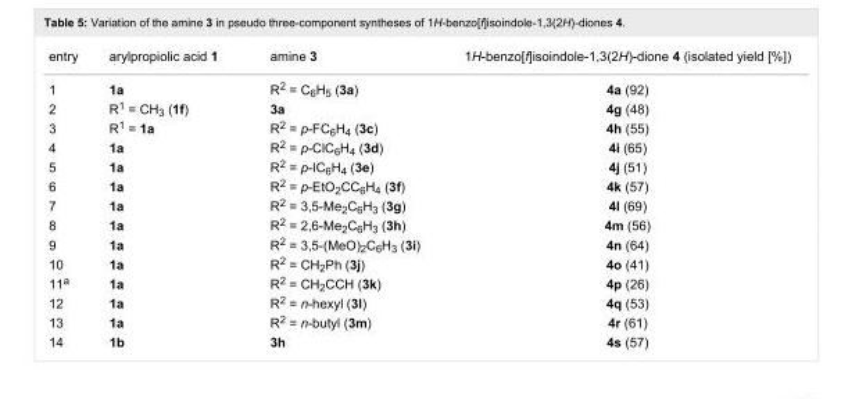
<table><tbody><tr><td>entry</td><td>arylpropiolic acid 1</td><td>amine 3</td><td>1H-benzo[f]isoindole-1,3(2H)-dione 4 (isolated yield [%])</td></tr><tr><td>1</td><td>1a</td><td>R<sup>2</sup> = C<sub>6</sub>H<sub>5</sub> (3a)</td><td>4a (92)</td></tr><tr><td>2</td><td>R<sup>1</sup> = CH<sub>3</sub> (1f)</td><td>3a</td><td>4g (48)</td></tr><tr><td>3</td><td>R<sup>1</sup> = 1a</td><td>R<sup>2</sup> = p-FC<sub>6</sub>H<sub>4</sub> (3c)</td><td>4h (55)</td></tr><tr><td>4</td><td>1a</td><td>R<sup>2</sup> = p-ClC<sub>6</sub>H<sub>4</sub> (3d)</td><td>4i (65)</td></tr><tr><td>5</td><td>1a</td><td>R<sup>2</sup> = p-IC<sub>6</sub>H<sub>4</sub> (3e)</td><td>4j (51)</td></tr><tr><td>6</td><td>1a</td><td>R<sup>2</sup> = p-EtO<sub>2</sub>CC<sub>6</sub>H<sub>4</sub> (3f)</td><td>4k (57)</td></tr><tr><td>7</td><td>1a</td><td>R<sup>2</sup> = 3,5-Me<sub>2</sub>C<sub>6</sub>H<sub>3</sub> (3g)</td><td>4l (69)</td></tr><tr><td>8</td><td>1a</td><td>R<sup>2</sup> = 2,6-Me<sub>2</sub>C<sub>6</sub>H<sub>3</sub> (3h)</td><td>4m (56)</td></tr><tr><td>9</td><td>1a</td><td>R<sup>2</sup> = 3,5-(MeO)<sub>2</sub>C<sub>6</sub>H<sub>3</sub> (3i)</td><td>4n (64)</td></tr><tr><td>10</td><td>1a</td><td>R<sup>2</sup> = CH<sub>2</sub>Ph (3j)</td><td>4o (41)</td></tr><tr><td>11<sup>a</sup></td><td>1a</td><td>R<sup>2</sup> = CH<sub>2</sub>CCH (3k)</td><td>4p (26)</td></tr><tr><td>12</td><td>1a</td><td>R<sup>2</sup> = n-hexyl (3l)</td><td>4q (53)</td></tr><tr><td>13</td><td>1a</td><td>R<sup>2</sup> = n-butyl (3m)</td><td>4r (61)</td></tr><tr><td>14</td><td>1b</td><td>3h</td><td>4s (57)</td></tr></tbody></table>